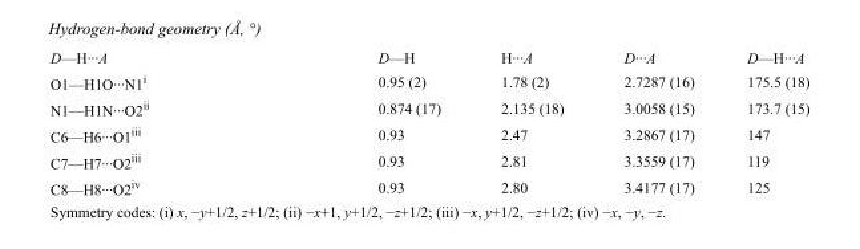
<table><tbody><tr><td>D—H···A</td><td>D—H</td><td>H···A</td><td>D···A</td><td>D—H···A</td></tr><tr><td>O1—H1O···N1<sup>i</sup></td><td>0.95 (2)</td><td>1.78 (2)</td><td>2.7287 (16)</td><td>175.5 (18)</td></tr><tr><td>N1—H1N···O2<sup>ii</sup></td><td>0.874 (17)</td><td>2.135 (18)</td><td>3.0058 (15)</td><td>173.7 (15)</td></tr><tr><td>C6—H6···O1<sup>iii</sup></td><td>0.93</td><td>2.47</td><td>3.2867 (17)</td><td>147</td></tr><tr><td>C7—H7···O2<sup>iii</sup></td><td>0.93</td><td>2.81</td><td>3.3559 (17)</td><td>119</td></tr><tr><td>C8—H8···O2<sup>iv</sup></td><td>0.93</td><td>2.80</td><td>3.4177 (17)</td><td>125</td></tr></tbody></table>